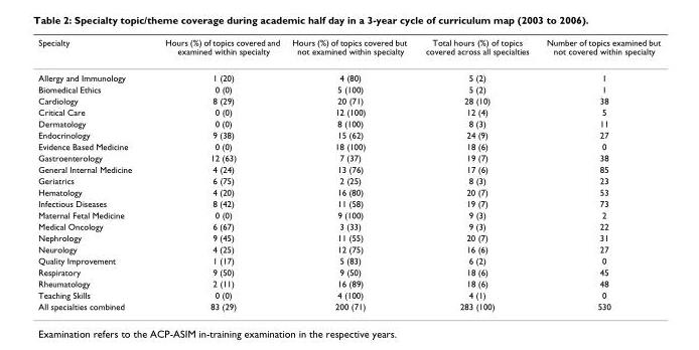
<table><thead><tr><td>Specialty</td><td>Hours (%) of topics covered and examined within specialty</td><td>Hours (%) of topics covered but not examined within specialty</td><td>Total hours (%) of topics covered across all specialties</td><td>Number of topics examined but not covered within specialty</td></tr></thead><tbody><tr><td>Allergy and Immunology</td><td>1 (20)</td><td>4 (80)</td><td>5 (2)</td><td>1</td></tr><tr><td>Biomedical Ethics</td><td>0 (0)</td><td>5 (100)</td><td>5 (2)</td><td>1</td></tr><tr><td>Cardiology</td><td>8 (29)</td><td>20 (71)</td><td>28 (10)</td><td>38</td></tr><tr><td>Critical Care</td><td>0 (0)</td><td>12 (100)</td><td>12 (4)</td><td>5</td></tr><tr><td>Dermatology</td><td>0 (0)</td><td>8 (100)</td><td>8 (3)</td><td>11</td></tr><tr><td>Endocrinology</td><td>9 (38)</td><td>15 (62)</td><td>24 (9)</td><td>27</td></tr><tr><td>Evidence Based Medicine</td><td>0 (0)</td><td>18 (100)</td><td>18 (6)</td><td>0</td></tr><tr><td>Gastroenterology</td><td>12 (63)</td><td>7 (37)</td><td>19 (7)</td><td>38</td></tr><tr><td>General Internal Medicine</td><td>4 (24)</td><td>13 (76)</td><td>17 (6)</td><td>85</td></tr><tr><td>Geriatrics</td><td>6 (75)</td><td>2 (25)</td><td>8 (3)</td><td>23</td></tr><tr><td>Hematology</td><td>4 (20)</td><td>16 (80)</td><td>20 (7)</td><td>53</td></tr><tr><td>Infectious Diseases</td><td>8 (42)</td><td>11 (58)</td><td>19 (7)</td><td>73</td></tr><tr><td>Maternal Fetal Medicine</td><td>0 (0)</td><td>9 (100)</td><td>9 (3)</td><td>2</td></tr><tr><td>Medical Oncology</td><td>6 (67)</td><td>3 (33)</td><td>9 (3)</td><td>22</td></tr><tr><td>Nephrology</td><td>9 (45)</td><td>11 (55)</td><td>20 (7)</td><td>31</td></tr><tr><td>Neurology</td><td>4 (25)</td><td>12 (75)</td><td>16 (6)</td><td>27</td></tr><tr><td>Quality Improvement</td><td>1 (17)</td><td>5 (83)</td><td>6 (2)</td><td>0</td></tr><tr><td>Respiratory</td><td>9 (50)</td><td>9 (50)</td><td>18 (6)</td><td>45</td></tr><tr><td>Rheumatology</td><td>2 (11)</td><td>16 (89)</td><td>18 (6)</td><td>48</td></tr><tr><td>Teaching Skills</td><td>0 (0)</td><td>4 (100)</td><td>4 (1)</td><td>0</td></tr><tr><td>All specialties combined</td><td>83 (29)</td><td>200 (71)</td><td>283 (100)</td><td>530</td></tr></tbody></table>